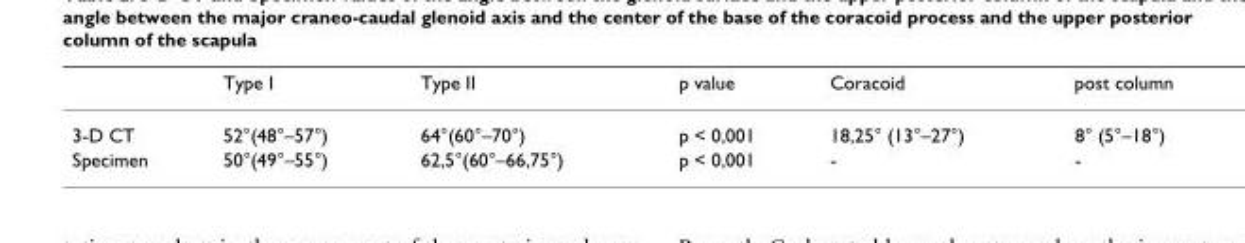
<table><thead><tr><td></td><td>Type I</td><td>Type II</td><td>p value</td><td>Coracoid</td><td>post column</td></tr></thead><tbody><tr><td>3-D CT</td><td>52°(48°–57°)</td><td>64°(60°–70°)</td><td>p &lt; 0,001</td><td>18,25° (13°–27°)</td><td>8° (5°–18°)</td></tr><tr><td>Specimen</td><td>50°(49°–55°)</td><td>62,5°(60°–66,75°)</td><td>p &lt; 0,001</td><td>-</td><td>-</td></tr></tbody></table>